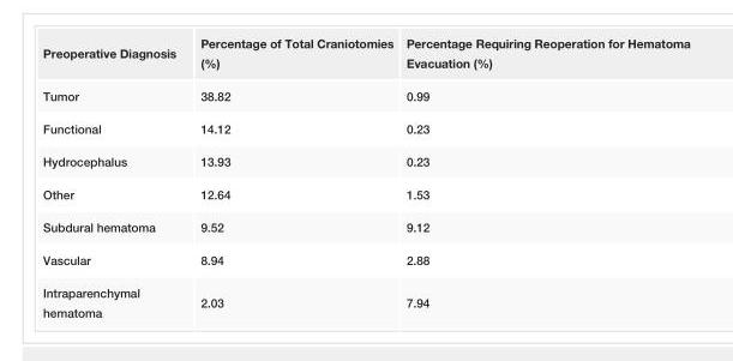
<table><tbody><tr><td>Preoperative Diagnosis</td><td>Percentage of Total Craniotomies (%)</td><td>Percentage Requiring Reoperation for Hematoma Evacuation (%)</td></tr><tr><td>Tumor</td><td>38.82</td><td>0.99</td></tr><tr><td>Functional</td><td>14.12</td><td>0.23</td></tr><tr><td>Hydrocephalus</td><td>13.93</td><td>0.23</td></tr><tr><td>Other</td><td>12.64</td><td>1.53</td></tr><tr><td>Subdural hematoma</td><td>9.52</td><td>9.12</td></tr><tr><td>Vascular</td><td>8.94</td><td>2.88</td></tr><tr><td>Intraparenchymal hematoma</td><td>2.03</td><td>7.94</td></tr></tbody></table>